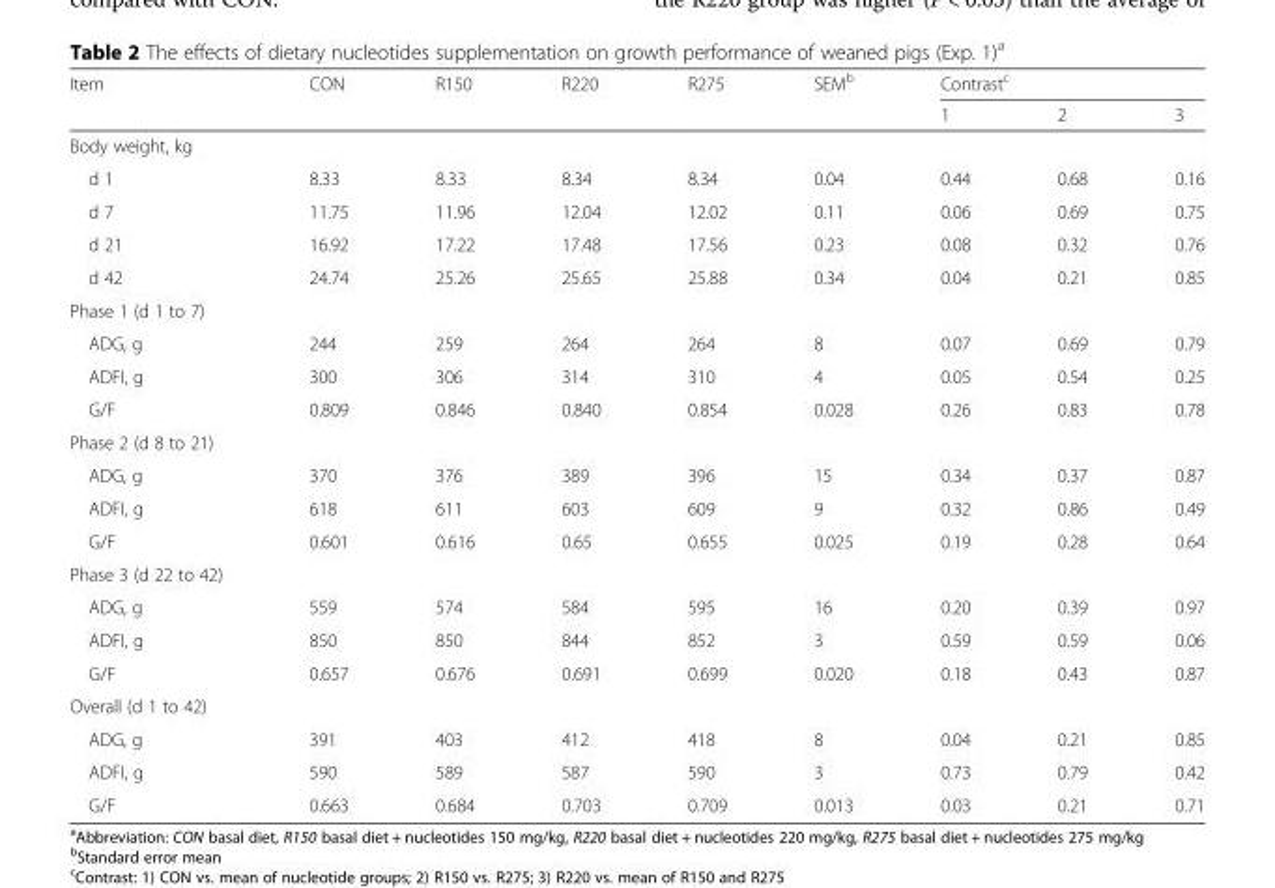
<table><thead><tr><td rowspan="2">Item</td><td rowspan="2">CON</td><td rowspan="2">R150</td><td rowspan="2">R220</td><td rowspan="2">R275</td><td rowspan="2">SEM<sup>b</sup></td><td colspan="3">Contrast<sup>c</sup></td></tr><tr><td>1</td><td>2</td><td>3</td></tr></thead><tbody><tr><td colspan="9">Body weight, kg</td></tr><tr><td>d 1</td><td>8.33</td><td>8.33</td><td>8.34</td><td>8.34</td><td>0.04</td><td>0.44</td><td>0.68</td><td>0.16</td></tr><tr><td>d 7</td><td>11.75</td><td>11.96</td><td>12.04</td><td>12.02</td><td>0.11</td><td>0.06</td><td>0.69</td><td>0.75</td></tr><tr><td>d 21</td><td>16.92</td><td>17.22</td><td>17.48</td><td>17.56</td><td>0.23</td><td>0.08</td><td>0.32</td><td>0.76</td></tr><tr><td>d 42</td><td>24.74</td><td>25.26</td><td>25.65</td><td>25.88</td><td>0.34</td><td>0.04</td><td>0.21</td><td>0.85</td></tr><tr><td colspan="9">Phase 1 (d 1 to 7)</td></tr><tr><td>ADG, g</td><td>244</td><td>259</td><td>264</td><td>264</td><td>8</td><td>0.07</td><td>0.69</td><td>0.79</td></tr><tr><td>ADFI, g</td><td>300</td><td>306</td><td>314</td><td>310</td><td>4</td><td>0.05</td><td>0.54</td><td>0.25</td></tr><tr><td>G/F</td><td>0.809</td><td>0.846</td><td>0.840</td><td>0.854</td><td>0.028</td><td>0.26</td><td>0.83</td><td>0.78</td></tr><tr><td colspan="9">Phase 2 (d 8 to 21)</td></tr><tr><td>ADG, g</td><td>370</td><td>376</td><td>389</td><td>396</td><td>15</td><td>0.34</td><td>0.37</td><td>0.87</td></tr><tr><td>ADFI, g</td><td>618</td><td>611</td><td>603</td><td>609</td><td>9</td><td>0.32</td><td>0.86</td><td>0.49</td></tr><tr><td>G/F</td><td>0.601</td><td>0.616</td><td>0.65</td><td>0.655</td><td>0.025</td><td>0.19</td><td>0.28</td><td>0.64</td></tr><tr><td colspan="9">Phase 3 (d 22 to 42)</td></tr><tr><td>ADG, g</td><td>559</td><td>574</td><td>584</td><td>595</td><td>16</td><td>0.20</td><td>0.39</td><td>0.97</td></tr><tr><td>ADFI, g</td><td>850</td><td>850</td><td>844</td><td>852</td><td>3</td><td>0.59</td><td>0.59</td><td>0.06</td></tr><tr><td>G/F</td><td>0.657</td><td>0.676</td><td>0.691</td><td>0.699</td><td>0.020</td><td>0.18</td><td>0.43</td><td>0.87</td></tr><tr><td colspan="9">Overall (d 1 to 42)</td></tr><tr><td>ADG, g</td><td>391</td><td>403</td><td>412</td><td>418</td><td>8</td><td>0.04</td><td>0.21</td><td>0.85</td></tr><tr><td>ADFI, g</td><td>590</td><td>589</td><td>587</td><td>590</td><td>3</td><td>0.73</td><td>0.79</td><td>0.42</td></tr><tr><td>G/F</td><td>0.663</td><td>0.684</td><td>0.703</td><td>0.709</td><td>0.013</td><td>0.03</td><td>0.21</td><td>0.71</td></tr></tbody></table>